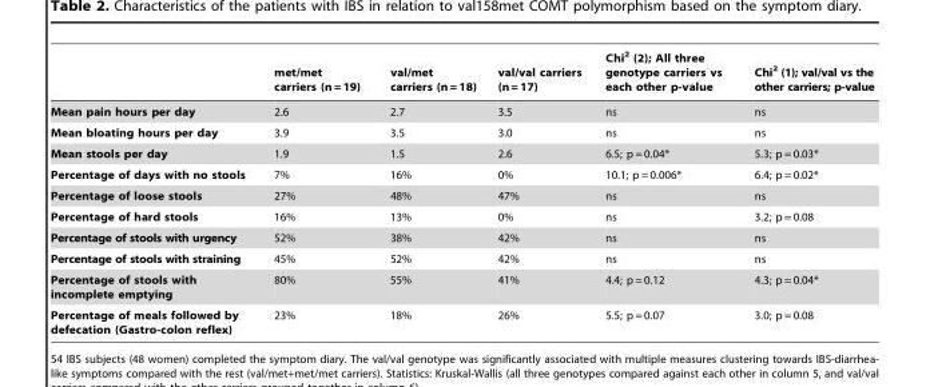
<table><thead><tr><td></td><td>met/met carriers (n = 19)</td><td>val/met carriers (n = 18)</td><td>val/val carriers (n = 17)</td><td>Chi<sup>2</sup> (2); All three genotype carriers vs each other p-value</td><td>Chi<sup>2</sup> (1); val/val vs the other carriers; p-value</td></tr></thead><tbody><tr><td>Mean pain hours per day</td><td>2.6</td><td>2.7</td><td>3.5</td><td>ns</td><td>ns</td></tr><tr><td>Mean bloating hours per day</td><td>3.9</td><td>3.5</td><td>3.0</td><td>ns</td><td>ns</td></tr><tr><td>Mean stools per day</td><td>1.9</td><td>1.5</td><td>2.6</td><td>6.5; p = 0.04*</td><td>5.3; p = 0.03*</td></tr><tr><td>Percentage of days with no stools</td><td>7%</td><td>16%</td><td>0%</td><td>10.1; p = 0.006*</td><td>6.4; p = 0.02*</td></tr><tr><td>Percentage of loose stools</td><td>27%</td><td>48%</td><td>47%</td><td>ns</td><td>ns</td></tr><tr><td>Percentage of hard stools</td><td>16%</td><td>13%</td><td>0%</td><td>ns</td><td>3.2; p = 0.08</td></tr><tr><td>Percentage of stools with urgency</td><td>52%</td><td>38%</td><td>42%</td><td>ns</td><td>ns</td></tr><tr><td>Percentage of stools with straining</td><td>45%</td><td>52%</td><td>42%</td><td>ns</td><td>ns</td></tr><tr><td>Percentage of stools with incomplete emptying</td><td>80%</td><td>55%</td><td>41%</td><td>4.4; p = 0.12</td><td>4.3; p = 0.04*</td></tr><tr><td>Percentage of meals followed by defecation (Gastro-colon reflex)</td><td>23%</td><td>18%</td><td>26%</td><td>5.5; p = 0.07</td><td>3.0; p = 0.08</td></tr></tbody></table>